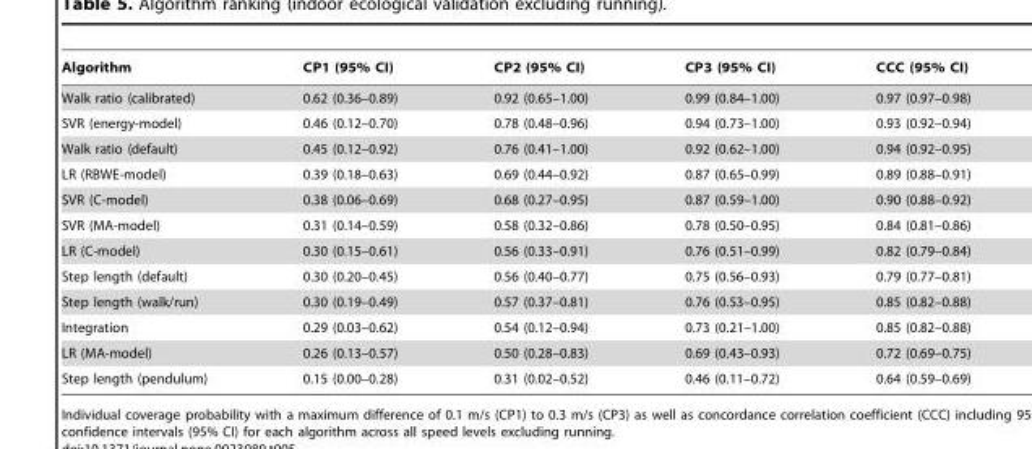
<table><thead><tr><td>Algorithm</td><td>CP1 (95% CI)</td><td>CP2 (95% CI)</td><td>CP3 (95% CI)</td><td>CCC (95% CI)</td></tr></thead><tbody><tr><td>Walk ratio (calibrated)</td><td>0.62 (0.36–0.89)</td><td>0.92 (0.65–1.00)</td><td>0.99 (0.84–1.00)</td><td>0.97 (0.97–0.98)</td></tr><tr><td>SVR (energy-model)</td><td>0.46 (0.12–0.70)</td><td>0.78 (0.48–0.96)</td><td>0.94 (0.73–1.00)</td><td>0.93 (0.92–0.94)</td></tr><tr><td>Walk ratio (default)</td><td>0.45 (0.12–0.92)</td><td>0.76 (0.41–1.00)</td><td>0.92 (0.62–1.00)</td><td>0.94 (0.92–0.95)</td></tr><tr><td>LR (RBWE-model)</td><td>0.39 (0.18–0.63)</td><td>0.69 (0.44–0.92)</td><td>0.87 (0.65–0.99)</td><td>0.89 (0.88–0.91)</td></tr><tr><td>SVR (C-model)</td><td>0.38 (0.06–0.69)</td><td>0.68 (0.27–0.95)</td><td>0.87 (0.59–1.00)</td><td>0.90 (0.88–0.92)</td></tr><tr><td>SVR (MA-model)</td><td>0.31 (0.14–0.59)</td><td>0.58 (0.32–0.86)</td><td>0.78 (0.50–0.95)</td><td>0.84 (0.81–0.86)</td></tr><tr><td>LR (C-model)</td><td>0.30 (0.15–0.61)</td><td>0.56 (0.33–0.91)</td><td>0.76 (0.51–0.99)</td><td>0.82 (0.79–0.84)</td></tr><tr><td>Step length (default)</td><td>0.30 (0.20–0.45)</td><td>0.56 (0.40–0.77)</td><td>0.75 (0.56–0.93)</td><td>0.79 (0.77–0.81)</td></tr><tr><td>Step length (walk/run)</td><td>0.30 (0.19–0.49)</td><td>0.57 (0.37–0.81)</td><td>0.76 (0.53–0.95)</td><td>0.85 (0.82–0.88)</td></tr><tr><td>Integration</td><td>0.29 (0.03–0.62)</td><td>0.54 (0.12–0.94)</td><td>0.73 (0.21–1.00)</td><td>0.85 (0.82–0.88)</td></tr><tr><td>LR (MA-model)</td><td>0.26 (0.13–0.57)</td><td>0.50 (0.28–0.83)</td><td>0.69 (0.43–0.93)</td><td>0.72 (0.69–0.75)</td></tr><tr><td>Step length (pendulum)</td><td>0.15 (0.00–0.28)</td><td>0.31 (0.02–0.52)</td><td>0.46 (0.11–0.72)</td><td>0.64 (0.59–0.69)</td></tr></tbody></table>